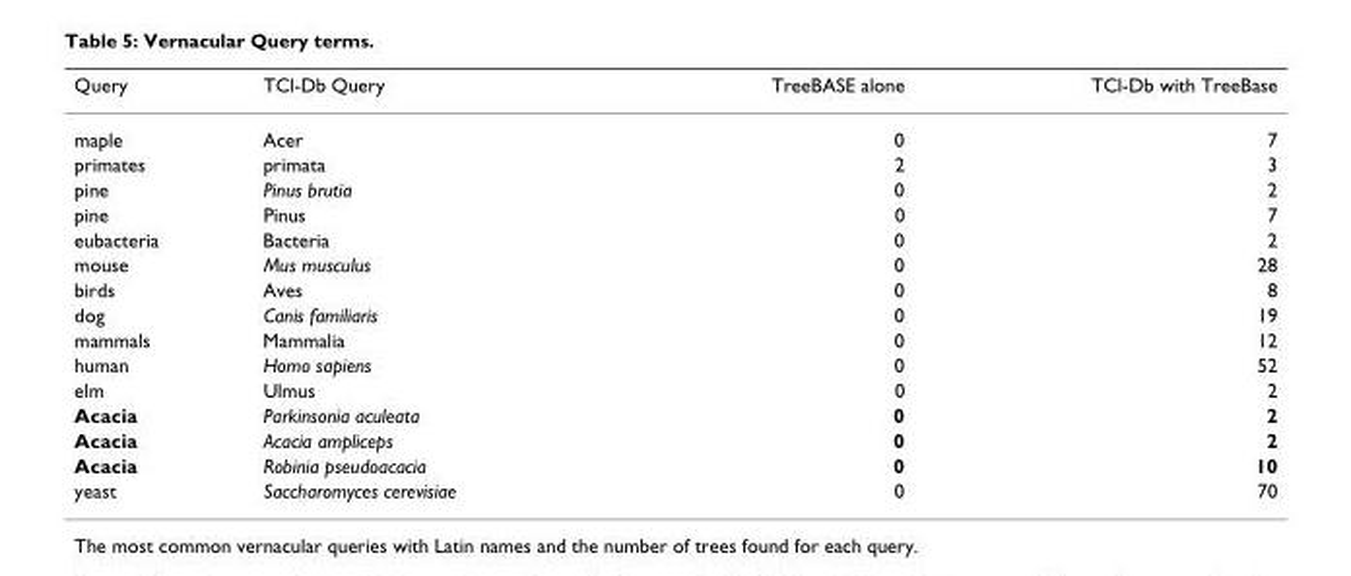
<table><thead><tr><td>Query</td><td>TCl-Db Query</td><td>TreeBASE alone</td><td>TCl-Db with TreeBase</td></tr></thead><tbody><tr><td>maple</td><td>Acer</td><td>0</td><td>7</td></tr><tr><td>primates</td><td>primata</td><td>2</td><td>3</td></tr><tr><td>pine</td><td>Pinus brutia</td><td>0</td><td>2</td></tr><tr><td>pine</td><td>Pinus</td><td>0</td><td>7</td></tr><tr><td>eubacteria</td><td>Bacteria</td><td>0</td><td>2</td></tr><tr><td>mouse</td><td>Mus musculus</td><td>0</td><td>28</td></tr><tr><td>birds</td><td>Aves</td><td>0</td><td>8</td></tr><tr><td>dog</td><td>Canis familiaris</td><td>0</td><td>19</td></tr><tr><td>mammals</td><td>Mammalia</td><td>0</td><td>12</td></tr><tr><td>human</td><td>Homo sapiens</td><td>0</td><td>52</td></tr><tr><td>elm</td><td>Ulmus</td><td>0</td><td>2</td></tr><tr><td>Acacia</td><td>Parkinsonia aculeata</td><td>0</td><td>2</td></tr><tr><td>Acacia</td><td>Acacia ampliceps</td><td>0</td><td>2</td></tr><tr><td>Acacia</td><td>Robinia pseudoacacia</td><td>0</td><td>10</td></tr><tr><td>yeast</td><td>Saccharomyces cerevisiae</td><td>0</td><td>70</td></tr></tbody></table>